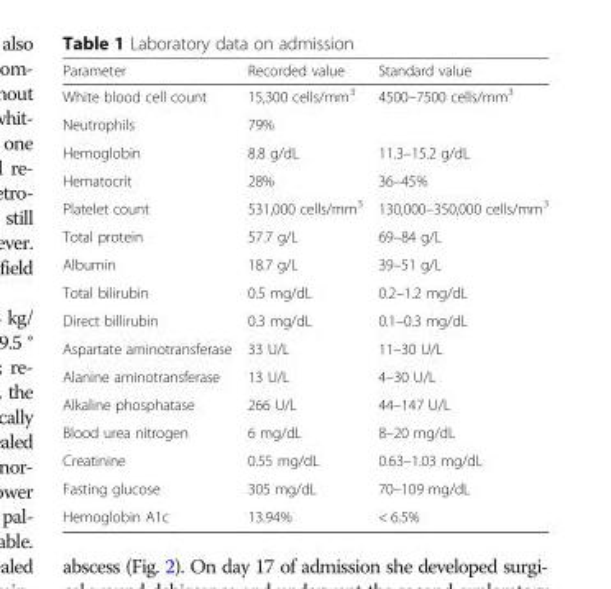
<table><thead><tr><td>Parameter</td><td>Recorded value</td><td>Standard value</td></tr></thead><tbody><tr><td>White blood cell count</td><td>15,300 cells/mm<sup>3</sup></td><td>4500–7500 cells/mm<sup>3</sup></td></tr><tr><td>Neutrophils</td><td>79%</td><td></td></tr><tr><td>Hemoglobin</td><td>8.8 g/dL</td><td>11.3–15.2 g/dL</td></tr><tr><td>Hematocrit</td><td>28%</td><td>36–45%</td></tr><tr><td>Platelet count</td><td>531,000 cells/mm<sup>3</sup></td><td>130,000–350,000 cells/mm<sup>3</sup></td></tr><tr><td>Total protein</td><td>57.7 g/L</td><td>69–84 g/L</td></tr><tr><td>Albumin</td><td>18.7 g/L</td><td>39–51 g/L</td></tr><tr><td>Total bilirubin</td><td>0.5 mg/dL</td><td>0.2–1.2 mg/dL</td></tr><tr><td>Direct billirubin</td><td>0.3 mg/dL</td><td>0.1–0.3 mg/dL</td></tr><tr><td>Aspartate aminotransferase</td><td>33 U/L</td><td>11–30 U/L</td></tr><tr><td>Alanine aminotransferase</td><td>13 U/L</td><td>4–30 U/L</td></tr><tr><td>Alkaline phosphatase</td><td>266 U/L</td><td>44–147 U/L</td></tr><tr><td>Blood urea nitrogen</td><td>6 mg/dL</td><td>8–20 mg/dL</td></tr><tr><td>Creatinine</td><td>0.55 mg/dL</td><td>0.63–1.03 mg/dL</td></tr><tr><td>Fasting glucose</td><td>305 mg/dL</td><td>70–109 mg/dL</td></tr><tr><td>Hemoglobin A1c</td><td>13.94%</td><td>&lt; 6.5%</td></tr></tbody></table>